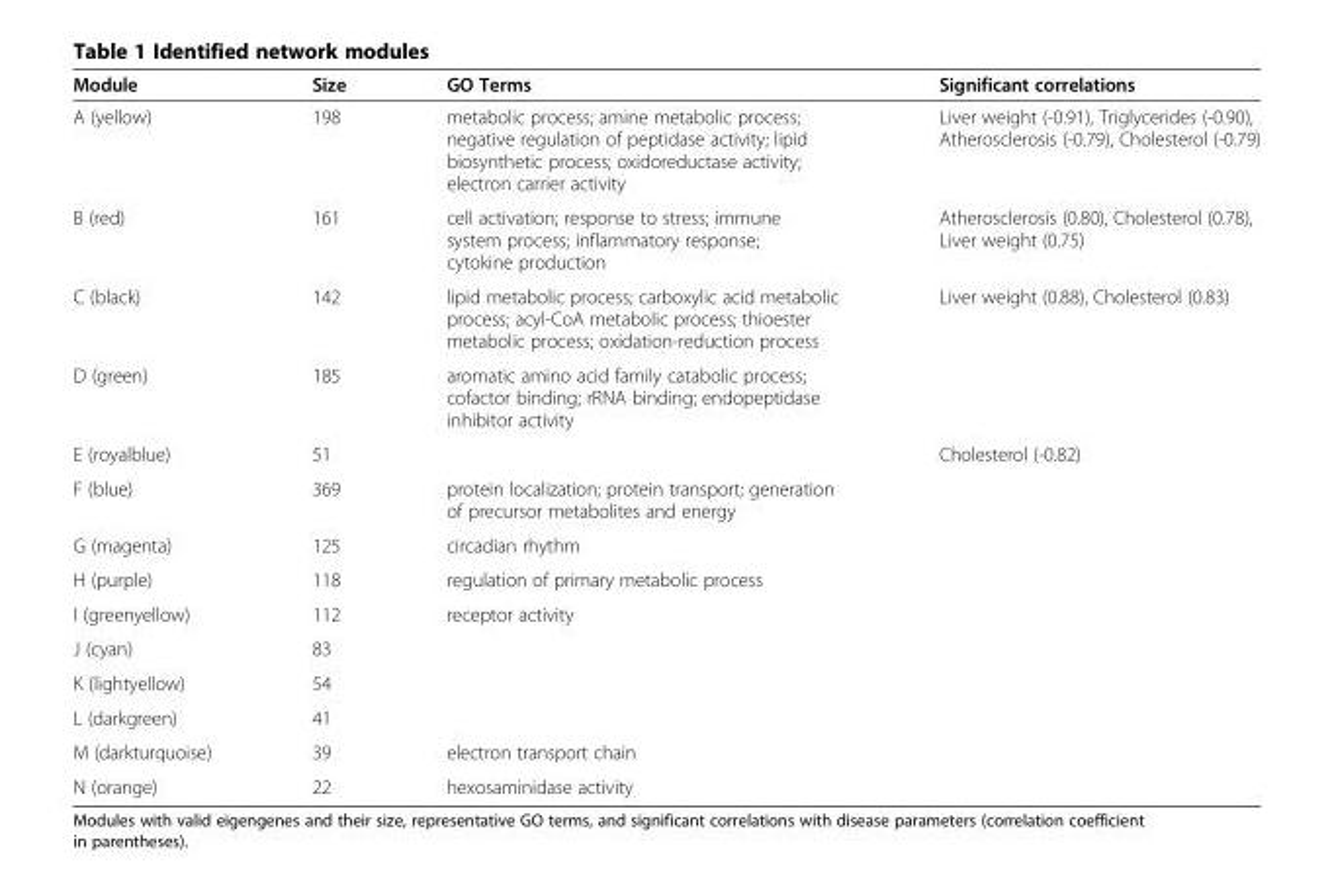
<table><thead><tr><td>Module</td><td>Size</td><td>GO Terms</td><td>Significant correlations</td></tr></thead><tbody><tr><td>A (yellow)</td><td>198</td><td>metabolic process; amine metabolic process; negative regulation of peptidase activity; lipid biosynthetic process; oxidoreductase activity; electron carrier activity</td><td>Liver weight (-0.91), Triglycerides (-0.90), Atherosclerosis (-0.79), Cholesterol (-0.79)</td></tr><tr><td>B (red)</td><td>161</td><td>cell activation; response to stress; immune system process; inflammatory response; cytokine production</td><td>Atherosclerosis (0.80), Cholesterol (0.78), Liver weight (0.75)</td></tr><tr><td>C (black)</td><td>142</td><td>lipid metabolic process; carboxylic acid metabolic process; acyl-CoA metabolic process; thioester metabolic process; oxidation-reduction process</td><td>Liver weight (0.88), Cholesterol (0.83)</td></tr><tr><td>D (green)</td><td>185</td><td>aromatic amino acid family catabolic process; cofactor binding; rRNA binding; endopeptidase inhibitor activity</td><td></td></tr><tr><td>E (royalblue)</td><td>51</td><td></td><td>Cholesterol (-0.82)</td></tr><tr><td>F (blue)</td><td>369</td><td>protein localization; protein transport; generation of precursor metabolites and energy</td><td></td></tr><tr><td>G (magenta)</td><td>125</td><td>circadian rhythm</td><td></td></tr><tr><td>H (purple)</td><td>118</td><td>regulation of primary metabolic process</td><td></td></tr><tr><td>I (greenyellow)</td><td>112</td><td>receptor activity</td><td></td></tr><tr><td>J (cyan)</td><td>83</td><td></td><td></td></tr><tr><td>K (lightyellow)</td><td>54</td><td></td><td></td></tr><tr><td>L (darkgreen)</td><td>41</td><td></td><td></td></tr><tr><td>M (darkturquoise)</td><td>39</td><td>electron transport chain</td><td></td></tr><tr><td>N (orange)</td><td>22</td><td>hexosaminidase activity</td><td></td></tr></tbody></table>